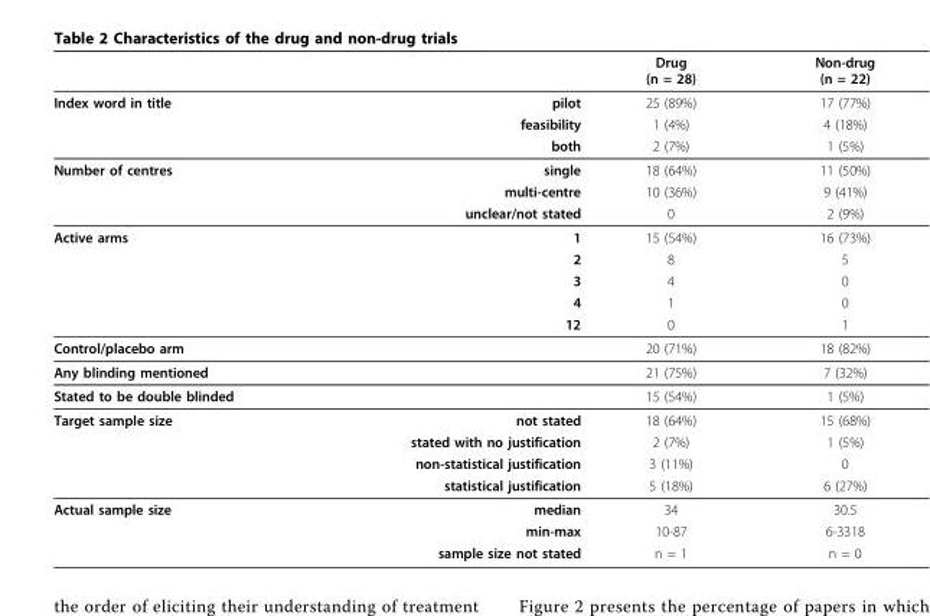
<table><thead><tr><td></td><td></td><td>Drug (n = 28)</td><td>Non-drug (n = 22)</td></tr></thead><tbody><tr><td rowspan="3">Index word in title</td><td>pilot</td><td>25 (89%)</td><td>17 (77%)</td></tr><tr><td>feasibility</td><td>1 (4%)</td><td>4 (18%)</td></tr><tr><td>both</td><td>2 (7%)</td><td>1 (5%)</td></tr><tr><td rowspan="3">Number of centres</td><td>single</td><td>18 (64%)</td><td>11 (50%)</td></tr><tr><td>multi-centre</td><td>10 (36%)</td><td>9 (41%)</td></tr><tr><td>unclear/not stated</td><td>0</td><td>2 (9%)</td></tr><tr><td rowspan="5">Active arms</td><td>1</td><td>15 (54%)</td><td>16 (73%)</td></tr><tr><td>2</td><td>8</td><td>5</td></tr><tr><td>3</td><td>4</td><td>0</td></tr><tr><td>4</td><td>1</td><td>0</td></tr><tr><td>12</td><td>0</td><td>1</td></tr><tr><td>Control/placebo arm</td><td></td><td>20 (71%)</td><td>18 (82%)</td></tr><tr><td colspan="2">Any blinding mentioned</td><td>21 (75%)</td><td>7 (32%)</td></tr><tr><td colspan="2">Stated to be double blinded</td><td>15 (54%)</td><td>1 (5%)</td></tr><tr><td rowspan="4">Target sample size</td><td>not stated</td><td>18 (64%)</td><td>15 (68%)</td></tr><tr><td>stated with no justification</td><td>2 (7%)</td><td>1 (5%)</td></tr><tr><td>non-statistical justification</td><td>3 (11%)</td><td>0</td></tr><tr><td>statistical justification</td><td>5 (18%)</td><td>6 (27%)</td></tr><tr><td rowspan="3">Actual sample size</td><td>median</td><td>34</td><td>30.5</td></tr><tr><td>min-max</td><td>10-87</td><td>6-3318</td></tr><tr><td>sample size not stated</td><td>n = 1</td><td>n = 0</td></tr></tbody></table>